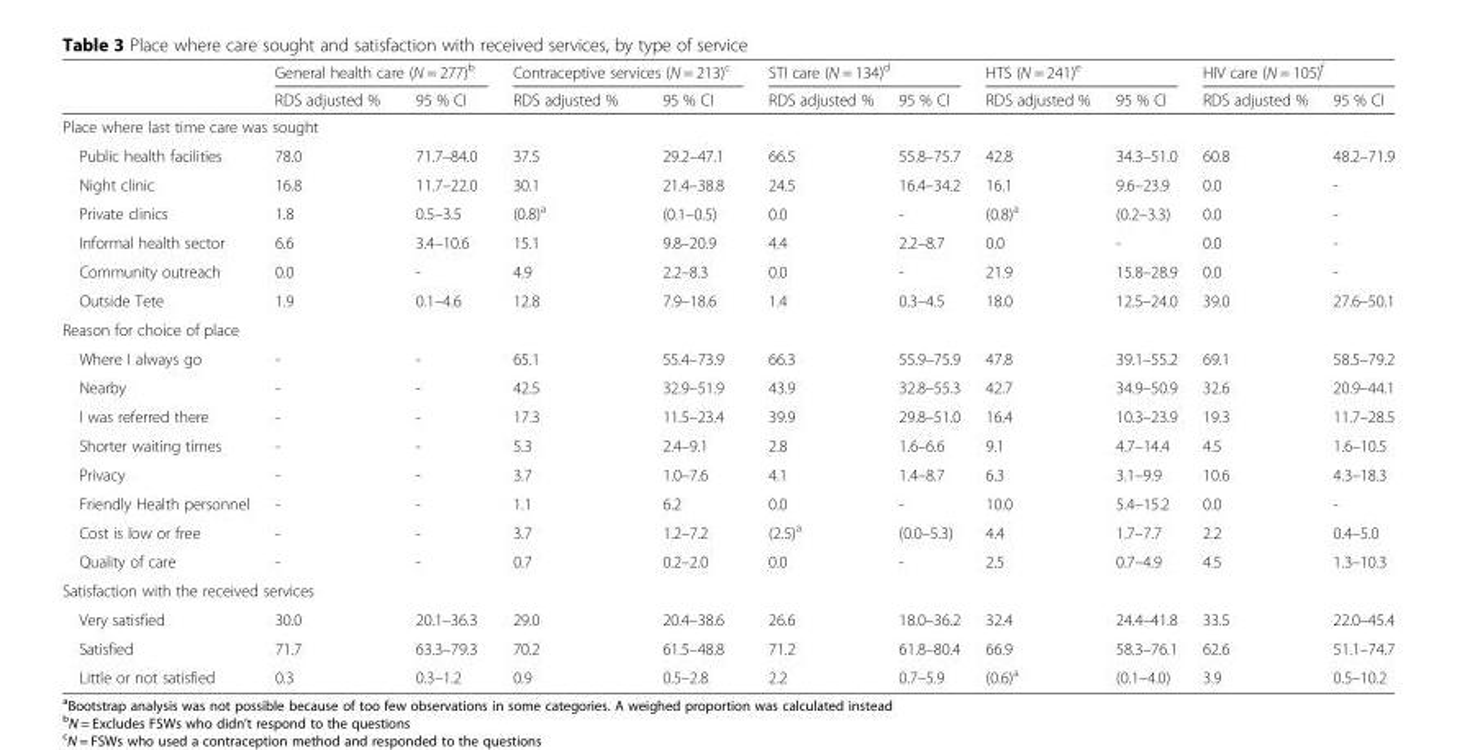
<table><thead><tr><td rowspan="2"></td><td colspan="2">General health care (N = 277)<sup>b</sup></td><td colspan="2">Contraceptive services (N = 213)<sup>c</sup></td><td colspan="2">STI care (N = 134)<sup>d</sup></td><td colspan="2">HTS (N = 241)<sup>e</sup></td><td colspan="2">HIV care (N = 105)<sup>f</sup></td></tr><tr><td>RDS adjusted %</td><td>95 % CI</td><td>RDS adjusted %</td><td>95 % CI</td><td>RDS adjusted %</td><td>95 % CI</td><td>RDS adjusted %</td><td>95 % CI</td><td>RDS adjusted %</td><td>95 % CI</td></tr></thead><tbody><tr><td colspan="11">Place where last time care was sought</td></tr><tr><td>Public health facilities</td><td>78.0</td><td>71.7–84.0</td><td>37.5</td><td>29.2–47.1</td><td>66.5</td><td>55.8–75.7</td><td>42.8</td><td>34.3–51.0</td><td>60.8</td><td>48.2–71.9</td></tr><tr><td>Night clinic</td><td>16.8</td><td>11.7–22.0</td><td>30.1</td><td>21.4–38.8</td><td>24.5</td><td>16.4–34.2</td><td>16.1</td><td>9.6–23.9</td><td>0.0</td><td>-</td></tr><tr><td>Private clinics</td><td>1.8</td><td>0.5–3.5</td><td>(0.8)<sup>a</sup></td><td>(0.1–0.5)</td><td>0.0</td><td>-</td><td>(0.8)<sup>a</sup></td><td>(0.2–3.3)</td><td>0.0</td><td>-</td></tr><tr><td>Informal health sector</td><td>6.6</td><td>3.4–10.6</td><td>15.1</td><td>9.8–20.9</td><td>4.4</td><td>2.2–8.7</td><td>0.0</td><td>-</td><td>0.0</td><td>-</td></tr><tr><td>Community outreach</td><td>0.0</td><td>-</td><td>4.9</td><td>2.2–8.3</td><td>0.0</td><td>-</td><td>21.9</td><td>15.8–28.9</td><td>0.0</td><td>-</td></tr><tr><td>Outside Tete</td><td>1.9</td><td>0.1–4.6</td><td>12.8</td><td>7.9–18.6</td><td>1.4</td><td>0.3–4.5</td><td>18.0</td><td>12.5–24.0</td><td>39.0</td><td>27.6–50.1</td></tr><tr><td colspan="11">Reason for choice of place</td></tr><tr><td>Where I always go</td><td>-</td><td>-</td><td>65.1</td><td>55.4–73.9</td><td>66.3</td><td>55.9–75.9</td><td>47.8</td><td>39.1–55.2</td><td>69.1</td><td>58.5–79.2</td></tr><tr><td>Nearby</td><td>-</td><td>-</td><td>42.5</td><td>32.9–51.9</td><td>43.9</td><td>32.8–55.3</td><td>42.7</td><td>34.9–50.9</td><td>32.6</td><td>20.9–44.1</td></tr><tr><td>I was referred there</td><td>-</td><td>-</td><td>17.3</td><td>11.5–23.4</td><td>39.9</td><td>29.8–51.0</td><td>16.4</td><td>10.3–23.9</td><td>19.3</td><td>11.7–28.5</td></tr><tr><td>Shorter waiting times</td><td>-</td><td>-</td><td>5.3</td><td>2.4–9.1</td><td>2.8</td><td>1.6–6.6</td><td>9.1</td><td>4.7–14.4</td><td>4.5</td><td>1.6–10.5</td></tr><tr><td>Privacy</td><td>-</td><td>-</td><td>3.7</td><td>1.0–7.6</td><td>4.1</td><td>1.4–8.7</td><td>6.3</td><td>3.1–9.9</td><td>10.6</td><td>4.3–18.3</td></tr><tr><td>Friendly Health personnel</td><td>-</td><td>-</td><td>1.1</td><td>6.2</td><td>0.0</td><td>-</td><td>10.0</td><td>5.4–15.2</td><td>0.0</td><td>-</td></tr><tr><td>Cost is low or free</td><td>-</td><td>-</td><td>3.7</td><td>1.2–7.2</td><td>(2.5)<sup>a</sup></td><td>(0.0–5.3)</td><td>4.4</td><td>1.7–7.7</td><td>2.2</td><td>0.4–5.0</td></tr><tr><td>Quality of care</td><td>-</td><td>-</td><td>0.7</td><td>0.2–2.0</td><td>0.0</td><td>-</td><td>2.5</td><td>0.7–4.9</td><td>4.5</td><td>1.3–10.3</td></tr><tr><td colspan="11">Satisfaction with the received services</td></tr><tr><td>Very satisfied</td><td>30.0</td><td>20.1–36.3</td><td>29.0</td><td>20.4–38.6</td><td>26.6</td><td>18.0–36.2</td><td>32.4</td><td>24.4–41.8</td><td>33.5</td><td>22.0–45.4</td></tr><tr><td>Satisfied</td><td>71.7</td><td>63.3–79.3</td><td>70.2</td><td>61.5–48.8</td><td>71.2</td><td>61.8–80.4</td><td>66.9</td><td>58.3–76.1</td><td>62.6</td><td>51.1–74.7</td></tr><tr><td>Little or not satisfied</td><td>0.3</td><td>0.3–1.2</td><td>0.9</td><td>0.5–2.8</td><td>2.2</td><td>0.7–5.9</td><td>(0.6)<sup>a</sup></td><td>(0.1–4.0)</td><td>3.9</td><td>0.5–10.2</td></tr></tbody></table>